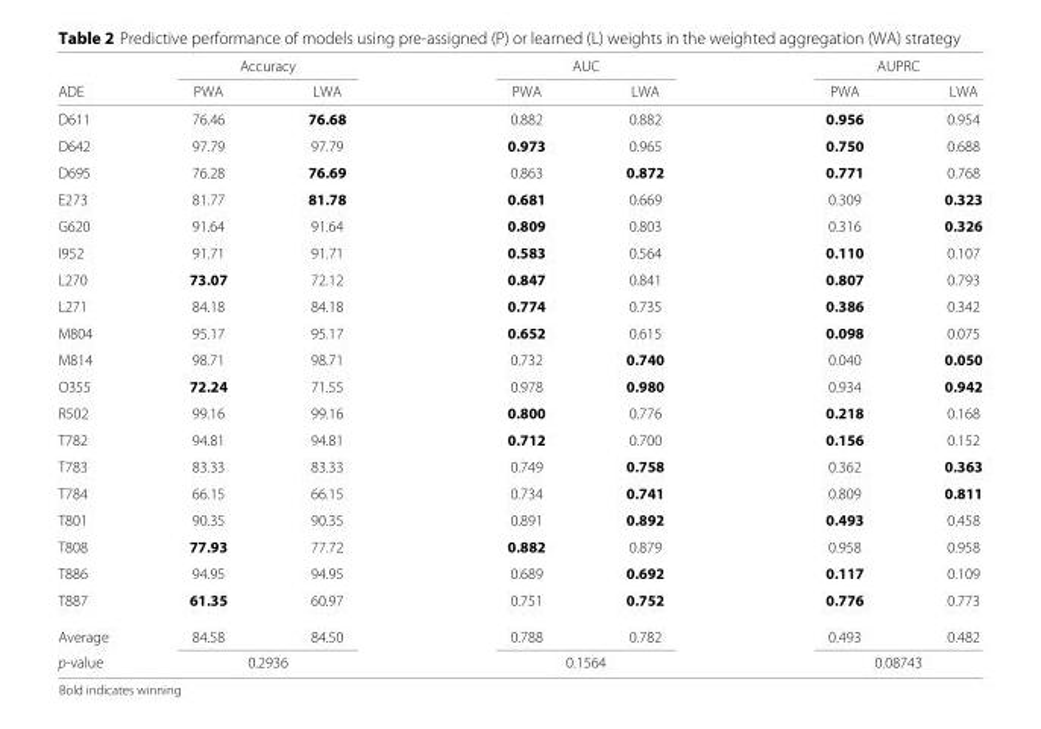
<table><thead><tr><td rowspan="2">ADE</td><td colspan="2">Accuracy</td><td colspan="2">AUC</td><td colspan="2">AUPRC</td></tr><tr><td>PWA</td><td>LWA</td><td>PWA</td><td>LWA</td><td>PWA</td><td>LWA</td></tr></thead><tbody><tr><td>D611</td><td>76.46</td><td>76.68</td><td>0.882</td><td>0.882</td><td>0.956</td><td>0.954</td></tr><tr><td>D642</td><td>97.79</td><td>97.79</td><td>0.973</td><td>0.965</td><td>0.750</td><td>0.688</td></tr><tr><td>D695</td><td>76.28</td><td>76.69</td><td>0.863</td><td>0.872</td><td>0.771</td><td>0.768</td></tr><tr><td>E273</td><td>81.77</td><td>81.78</td><td>0.681</td><td>0.669</td><td>0.309</td><td>0.323</td></tr><tr><td>G620</td><td>91.64</td><td>91.64</td><td>0.809</td><td>0.803</td><td>0.316</td><td>0.326</td></tr><tr><td>I952</td><td>91.71</td><td>91.71</td><td>0.583</td><td>0.564</td><td>0.110</td><td>0.107</td></tr><tr><td>L270</td><td>73.07</td><td>72.12</td><td>0.847</td><td>0.841</td><td>0.807</td><td>0.793</td></tr><tr><td>L271</td><td>84.18</td><td>84.18</td><td>0.774</td><td>0.735</td><td>0.386</td><td>0.342</td></tr><tr><td>M804</td><td>95.17</td><td>95.17</td><td>0.652</td><td>0.615</td><td>0.098</td><td>0.075</td></tr><tr><td>M814</td><td>98.71</td><td>98.71</td><td>0.732</td><td>0.740</td><td>0.040</td><td>0.050</td></tr><tr><td>O355</td><td>72.24</td><td>71.55</td><td>0.978</td><td>0.980</td><td>0.934</td><td>0.942</td></tr><tr><td>R502</td><td>99.16</td><td>99.16</td><td>0.800</td><td>0.776</td><td>0.218</td><td>0.168</td></tr><tr><td>T782</td><td>94.81</td><td>94.81</td><td>0.712</td><td>0.700</td><td>0.156</td><td>0.152</td></tr><tr><td>T783</td><td>83.33</td><td>83.33</td><td>0.749</td><td>0.758</td><td>0.362</td><td>0.363</td></tr><tr><td>T784</td><td>66.15</td><td>66.15</td><td>0.734</td><td>0.741</td><td>0.809</td><td>0.811</td></tr><tr><td>T801</td><td>90.35</td><td>90.35</td><td>0.891</td><td>0.892</td><td>0.493</td><td>0.458</td></tr><tr><td>T808</td><td>77.93</td><td>77.72</td><td>0.882</td><td>0.879</td><td>0.958</td><td>0.958</td></tr><tr><td>T886</td><td>94.95</td><td>94.95</td><td>0.689</td><td>0.692</td><td>0.117</td><td>0.109</td></tr><tr><td>T887</td><td>61.35</td><td>60.97</td><td>0.751</td><td>0.752</td><td>0.776</td><td>0.773</td></tr><tr><td>Average</td><td>84.58</td><td>84.50</td><td>0.788</td><td>0.782</td><td>0.493</td><td>0.482</td></tr><tr><td>p-value</td><td colspan="2">0.2936</td><td colspan="2">0.1564</td><td colspan="2">0.08743</td></tr></tbody></table>